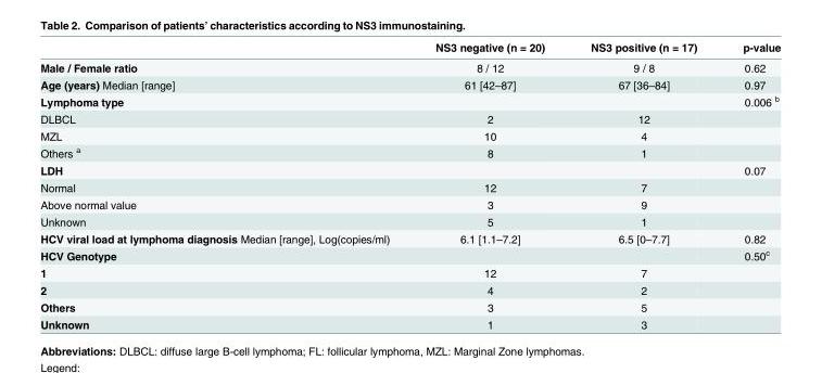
<table><thead><tr><td></td><td>NS3 negative (n = 20)</td><td>NS3 positive (n = 17)</td><td>p-value</td></tr></thead><tbody><tr><td>Male / Female ratio</td><td>8 / 12</td><td>9 / 8</td><td>0.62</td></tr><tr><td>Age (years) Median [range]</td><td>61 [42–87]</td><td>67 [36–84]</td><td>0.97</td></tr><tr><td>Lymphoma type</td><td></td><td></td><td>0.006 <sup>b</sup></td></tr><tr><td>DLBCL</td><td>2</td><td>12</td><td></td></tr><tr><td>MZL</td><td>10</td><td>4</td><td></td></tr><tr><td>Others <sup>a</sup></td><td>8</td><td>1</td><td></td></tr><tr><td>LDH</td><td></td><td></td><td>0.07</td></tr><tr><td>Normal</td><td>12</td><td>7</td><td></td></tr><tr><td>Above normal value</td><td>3</td><td>9</td><td></td></tr><tr><td>Unknown</td><td>5</td><td>1</td><td></td></tr><tr><td>HCV viral load at lymphoma diagnosis Median [range], Log(copies/ml)</td><td>6.1 [1.1–7.2]</td><td>6.5 [0–7.7]</td><td>0.82</td></tr><tr><td>HCV Genotype</td><td></td><td></td><td>0.50<sup>c</sup></td></tr><tr><td>1</td><td>12</td><td>7</td><td></td></tr><tr><td>2</td><td>4</td><td>2</td><td></td></tr><tr><td>Others</td><td>3</td><td>5</td><td></td></tr><tr><td>Unknown</td><td>1</td><td>3</td><td></td></tr></tbody></table>